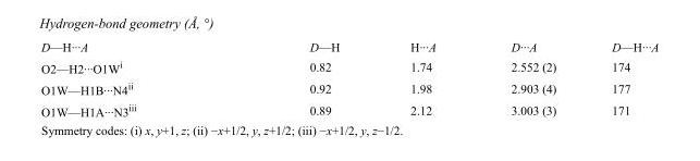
<table><tbody><tr><td>D—H···A</td><td>D—H</td><td>H···A</td><td>D···A</td><td>D—H···A</td></tr><tr><td>O2—H2···O1W<sup>i</sup></td><td>0.82</td><td>1.74</td><td>2.552 (2)</td><td>174</td></tr><tr><td>O1W—H1B···N4<sup>ii</sup></td><td>0.92</td><td>1.98</td><td>2.903 (4)</td><td>177</td></tr><tr><td>O1W—H1A···N3<sup>iii</sup></td><td>0.89</td><td>2.12</td><td>3.003 (3)</td><td>171</td></tr></tbody></table>